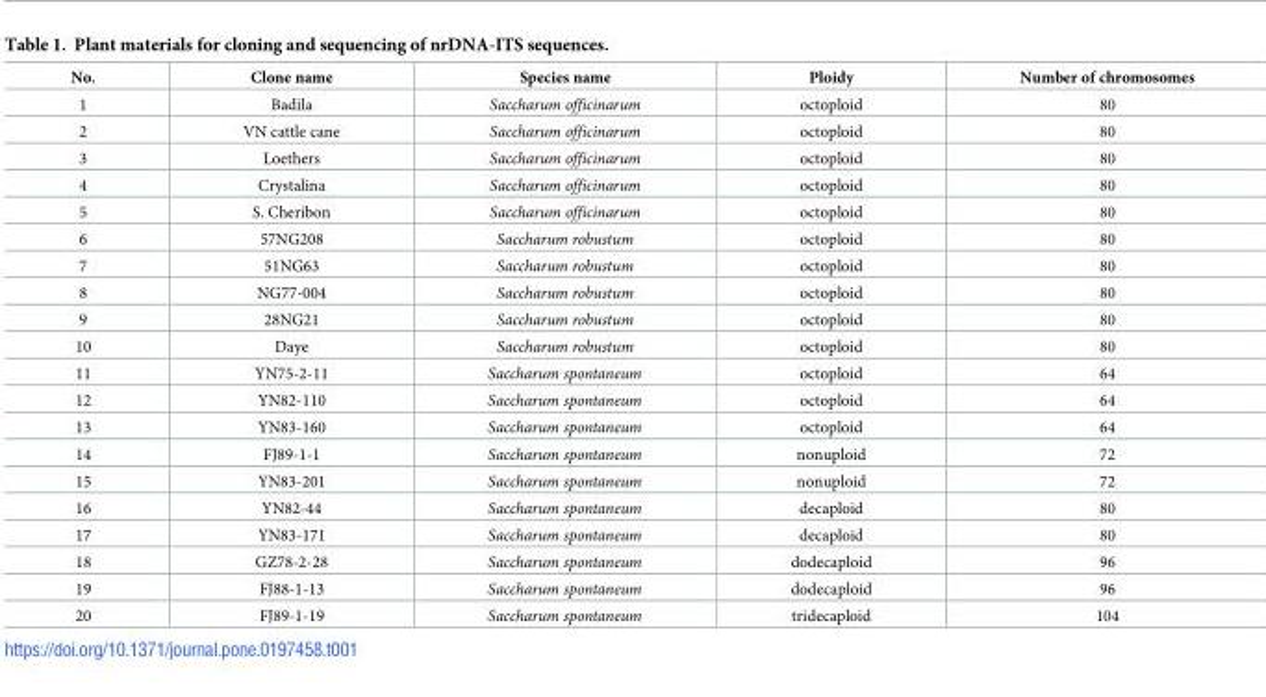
<table><thead><tr><td>No.</td><td>Clone name</td><td>Species name</td><td>Ploidy</td><td>Number of chromosomes</td></tr></thead><tbody><tr><td>1</td><td>Badila</td><td>Saccharum officinarum</td><td>octoploid</td><td>80</td></tr><tr><td>2</td><td>VN cattle cane</td><td>Saccharum officinarum</td><td>octoploid</td><td>80</td></tr><tr><td>3</td><td>Loethers</td><td>Saccharum officinarum</td><td>octoploid</td><td>80</td></tr><tr><td>4</td><td>Crystalina</td><td>Saccharum officinarum</td><td>octoploid</td><td>80</td></tr><tr><td>5</td><td>S. Cheribon</td><td>Saccharum officinarum</td><td>octoploid</td><td>80</td></tr><tr><td>6</td><td>57NG208</td><td>Saccharum robustum</td><td>octoploid</td><td>80</td></tr><tr><td>7</td><td>51NG63</td><td>Saccharum robustum</td><td>octoploid</td><td>80</td></tr><tr><td>8</td><td>NG77-004</td><td>Saccharum robustum</td><td>octoploid</td><td>80</td></tr><tr><td>9</td><td>28NG21</td><td>Saccharum robustum</td><td>octoploid</td><td>80</td></tr><tr><td>10</td><td>Daye</td><td>Saccharum robustum</td><td>octoploid</td><td>80</td></tr><tr><td>11</td><td>YN75-2-11</td><td>Saccharum spontaneum</td><td>octoploid</td><td>64</td></tr><tr><td>12</td><td>YN82-110</td><td>Saccharum spontaneum</td><td>octoploid</td><td>64</td></tr><tr><td>13</td><td>YN83-160</td><td>Saccharum spontaneum</td><td>octoploid</td><td>64</td></tr><tr><td>14</td><td>FJ89-1-1</td><td>Saccharum spontaneum</td><td>nonuploid</td><td>72</td></tr><tr><td>15</td><td>YN83-201</td><td>Saccharum spontaneum</td><td>nonuploid</td><td>72</td></tr><tr><td>16</td><td>YN82-44</td><td>Saccharum spontaneum</td><td>decaploid</td><td>80</td></tr><tr><td>17</td><td>YN83-171</td><td>Saccharum spontaneum</td><td>decaploid</td><td>80</td></tr><tr><td>18</td><td>GZ78-2-28</td><td>Saccharum spontaneum</td><td>dodecaploid</td><td>96</td></tr><tr><td>19</td><td>FJ88-1-13</td><td>Saccharum spontaneum</td><td>dodecaploid</td><td>96</td></tr><tr><td>20</td><td>FJ89-1-19</td><td>Saccharum spontaneum</td><td>tridecaploid</td><td>104</td></tr></tbody></table>